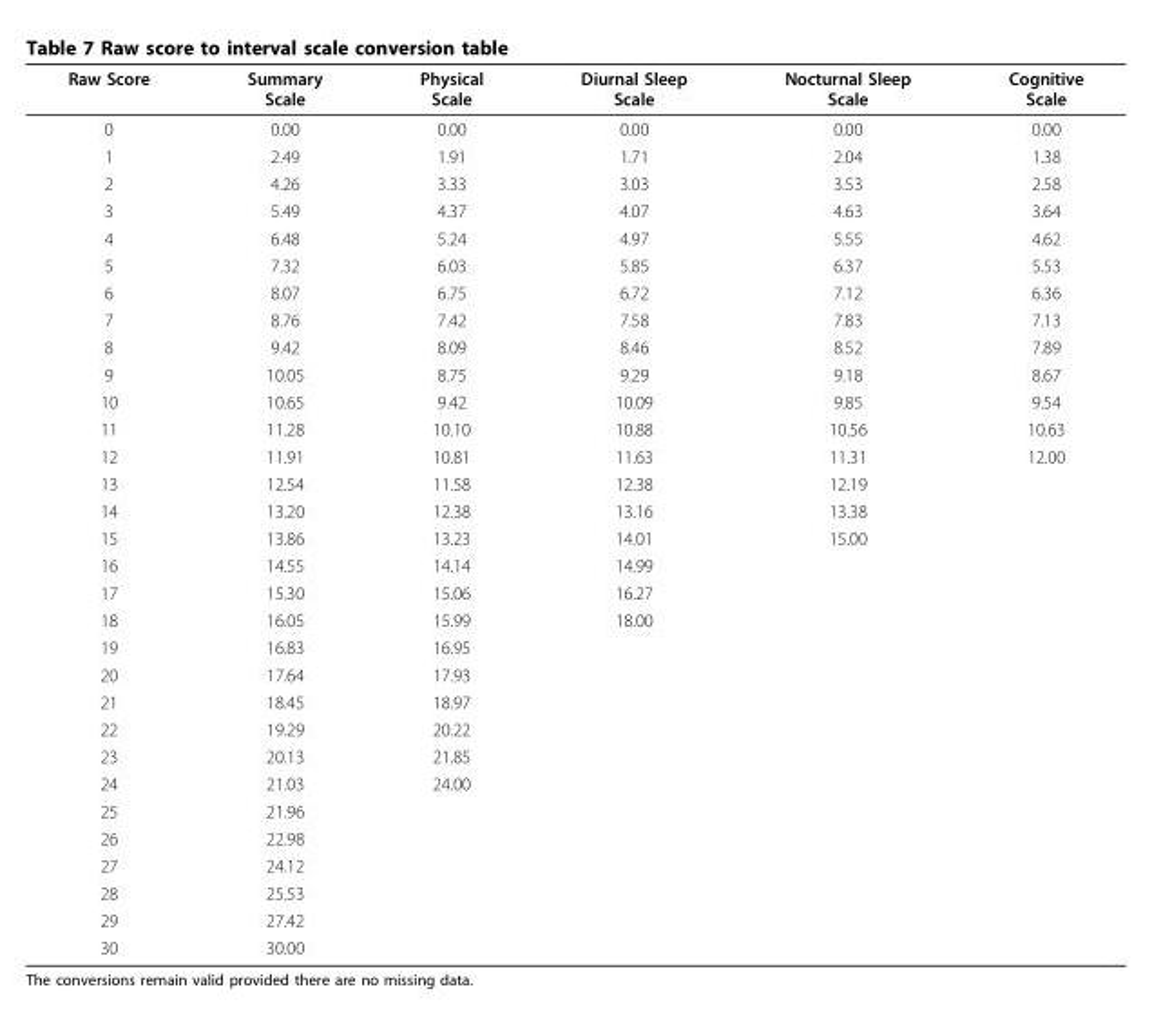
<table><thead><tr><td>Raw Score</td><td>Summary Scale</td><td>Physical Scale</td><td>Diurnal Sleep Scale</td><td>Nocturnal Sleep Scale</td><td>Cognitive Scale</td></tr></thead><tbody><tr><td>0</td><td>0.00</td><td>0.00</td><td>0.00</td><td>0.00</td><td>0.00</td></tr><tr><td>1</td><td>2.49</td><td>1.91</td><td>1.71</td><td>2.04</td><td>1.38</td></tr><tr><td>2</td><td>4.26</td><td>3.33</td><td>3.03</td><td>3.53</td><td>2.58</td></tr><tr><td>3</td><td>5.49</td><td>4.37</td><td>4.07</td><td>4.63</td><td>3.64</td></tr><tr><td>4</td><td>6.48</td><td>5.24</td><td>4.97</td><td>5.55</td><td>4.62</td></tr><tr><td>5</td><td>7.32</td><td>6.03</td><td>5.85</td><td>6.37</td><td>5.53</td></tr><tr><td>6</td><td>8.07</td><td>6.75</td><td>6.72</td><td>7.12</td><td>6.36</td></tr><tr><td>7</td><td>8.76</td><td>7.42</td><td>7.58</td><td>7.83</td><td>7.13</td></tr><tr><td>8</td><td>9.42</td><td>8.09</td><td>8.46</td><td>8.52</td><td>7.89</td></tr><tr><td>9</td><td>10.05</td><td>8.75</td><td>9.29</td><td>9.18</td><td>8.67</td></tr><tr><td>10</td><td>10.65</td><td>9.42</td><td>10.09</td><td>9.85</td><td>9.54</td></tr><tr><td>11</td><td>11.28</td><td>10.10</td><td>10.88</td><td>10.56</td><td>10.63</td></tr><tr><td>12</td><td>11.91</td><td>10.81</td><td>11.63</td><td>11.31</td><td>12.00</td></tr><tr><td>13</td><td>12.54</td><td>11.58</td><td>12.38</td><td>12.19</td><td></td></tr><tr><td>14</td><td>13.20</td><td>12.38</td><td>13.16</td><td>13.38</td><td></td></tr><tr><td>15</td><td>13.86</td><td>13.23</td><td>14.01</td><td>15.00</td><td></td></tr><tr><td>16</td><td>14.55</td><td>14.14</td><td>14.99</td><td></td><td></td></tr><tr><td>17</td><td>15.30</td><td>15.06</td><td>16.27</td><td></td><td></td></tr><tr><td>18</td><td>16.05</td><td>15.99</td><td>18.00</td><td></td><td></td></tr><tr><td>19</td><td>16.83</td><td>16.95</td><td></td><td></td><td></td></tr><tr><td>20</td><td>17.64</td><td>17.93</td><td></td><td></td><td></td></tr><tr><td>21</td><td>18.45</td><td>18.97</td><td></td><td></td><td></td></tr><tr><td>22</td><td>19.29</td><td>20.22</td><td></td><td></td><td></td></tr><tr><td>23</td><td>20.13</td><td>21.85</td><td></td><td></td><td></td></tr><tr><td>24</td><td>21.03</td><td>24.00</td><td></td><td></td><td></td></tr><tr><td>25</td><td>21.96</td><td></td><td></td><td></td><td></td></tr><tr><td>26</td><td>22.98</td><td></td><td></td><td></td><td></td></tr><tr><td>27</td><td>24.12</td><td></td><td></td><td></td><td></td></tr><tr><td>28</td><td>25.53</td><td></td><td></td><td></td><td></td></tr><tr><td>29</td><td>27.42</td><td></td><td></td><td></td><td></td></tr><tr><td>30</td><td>30.00</td><td></td><td></td><td></td><td></td></tr></tbody></table>